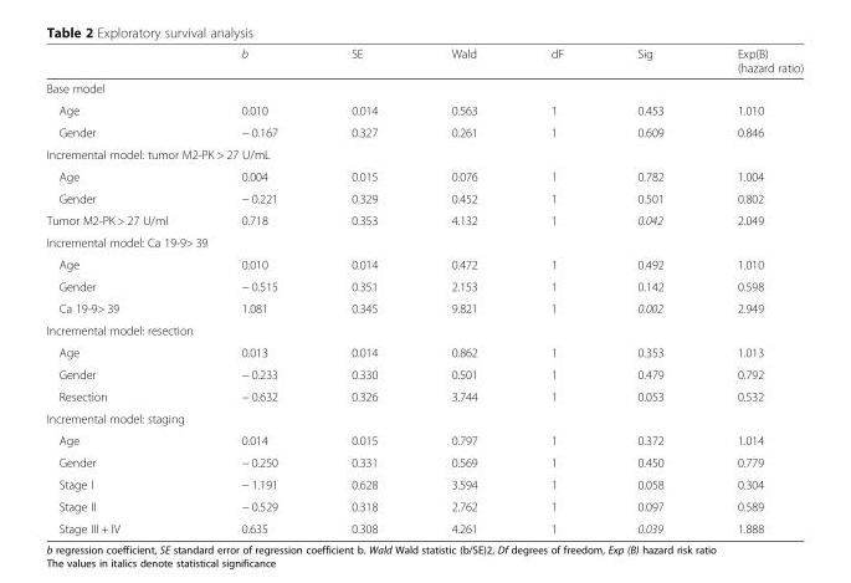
<table><thead><tr><td></td><td>b</td><td>SE</td><td>Wald</td><td>dF</td><td>Sig</td><td>Exp(B) (hazard ratio)</td></tr></thead><tbody><tr><td colspan="7">Base model</td></tr><tr><td>Age</td><td>0.010</td><td>0.014</td><td>0.563</td><td>1</td><td>0.453</td><td>1.010</td></tr><tr><td>Gender</td><td>− 0.167</td><td>0.327</td><td>0.261</td><td>1</td><td>0.609</td><td>0.846</td></tr><tr><td colspan="7">Incremental model: tumor M2-PK &gt; 27 U/mL</td></tr><tr><td>Age</td><td>0.004</td><td>0.015</td><td>0.076</td><td>1</td><td>0.782</td><td>1.004</td></tr><tr><td>Gender</td><td>− 0.221</td><td>0.329</td><td>0.452</td><td>1</td><td>0.501</td><td>0.802</td></tr><tr><td>Tumor M2-PK &gt; 27 U/ml</td><td>0.718</td><td>0.353</td><td>4.132</td><td>1</td><td>0.042</td><td>2.049</td></tr><tr><td colspan="7">Incremental model: Ca 19-9&gt; 39</td></tr><tr><td>Age</td><td>0.010</td><td>0.014</td><td>0.472</td><td>1</td><td>0.492</td><td>1.010</td></tr><tr><td>Gender</td><td>− 0.515</td><td>0.351</td><td>2.153</td><td>1</td><td>0.142</td><td>0.598</td></tr><tr><td>Ca 19-9&gt; 39</td><td>1.081</td><td>0.345</td><td>9.821</td><td>1</td><td>0.002</td><td>2.949</td></tr><tr><td colspan="7">Incremental model: resection</td></tr><tr><td>Age</td><td>0.013</td><td>0.014</td><td>0.862</td><td>1</td><td>0.353</td><td>1.013</td></tr><tr><td>Gender</td><td>− 0.233</td><td>0.330</td><td>0.501</td><td>1</td><td>0.479</td><td>0.792</td></tr><tr><td>Resection</td><td>− 0.632</td><td>0.326</td><td>3.744</td><td>1</td><td>0.053</td><td>0.532</td></tr><tr><td colspan="7">Incremental model: staging</td></tr><tr><td>Age</td><td>0.014</td><td>0.015</td><td>0.797</td><td>1</td><td>0.372</td><td>1.014</td></tr><tr><td>Gender</td><td>− 0.250</td><td>0.331</td><td>0.569</td><td>1</td><td>0.450</td><td>0.779</td></tr><tr><td>Stage I</td><td>− 1.191</td><td>0.628</td><td>3.594</td><td>1</td><td>0.058</td><td>0.304</td></tr><tr><td>Stage II</td><td>− 0.529</td><td>0.318</td><td>2.762</td><td>1</td><td>0.097</td><td>0.589</td></tr><tr><td>Stage III + IV</td><td>0.635</td><td>0.308</td><td>4.261</td><td>1</td><td>0.039</td><td>1.888</td></tr></tbody></table>